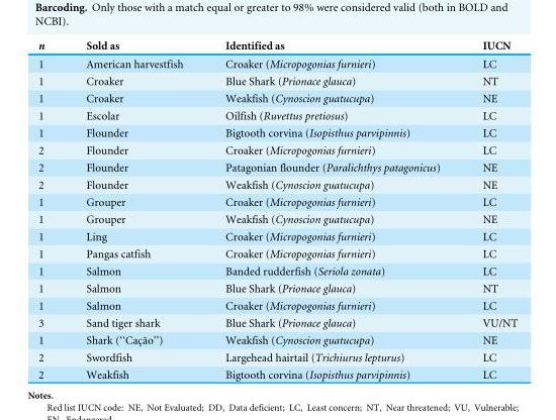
<table><thead><tr><td>n</td><td>Sold as</td><td>Identified as</td><td>IUCN</td></tr></thead><tbody><tr><td>1</td><td>American harvestfish</td><td>Croaker (Micropogonias furnieri)</td><td>LC</td></tr><tr><td>1</td><td>Croaker</td><td>Blue Shark (Prionace glauca)</td><td>NT</td></tr><tr><td>1</td><td>Croaker</td><td>Weakfish (Cynoscion guatucupa)</td><td>NE</td></tr><tr><td>1</td><td>Escolar</td><td>Oilfish (Ruvettus pretiosus)</td><td>LC</td></tr><tr><td>1</td><td>Flounder</td><td>Bigtooth corvina (Isopisthus parvipinnis)</td><td>LC</td></tr><tr><td>2</td><td>Flounder</td><td>Croaker (Micropogonias furnieri)</td><td>LC</td></tr><tr><td>2</td><td>Flounder</td><td>Patagonian flounder (Paralichthys patagonicus)</td><td>NE</td></tr><tr><td>2</td><td>Flounder</td><td>Weakfish (Cynoscion guatucupa)</td><td>NE</td></tr><tr><td>1</td><td>Grouper</td><td>Croaker (Micropogonias furnieri)</td><td>LC</td></tr><tr><td>1</td><td>Grouper</td><td>Weakfish (Cynoscion guatucupa)</td><td>NE</td></tr><tr><td>1</td><td>Ling</td><td>Croaker (Micropogonias furnieri)</td><td>LC</td></tr><tr><td>1</td><td>Pangas catfish</td><td>Croaker (Micropogonias furnieri)</td><td>LC</td></tr><tr><td>1</td><td>Salmon</td><td>Banded rudderfish (Seriola zonata)</td><td>LC</td></tr><tr><td>1</td><td>Salmon</td><td>Blue Shark (Prionace glauca)</td><td>NT</td></tr><tr><td>1</td><td>Salmon</td><td>Croaker (Micropogonias furnieri)</td><td>LC</td></tr><tr><td>3</td><td>Sand tiger shark</td><td>Blue Shark (Prionace glauca)</td><td>VU/NT</td></tr><tr><td>1</td><td>Shark (‘‘Ca¸cão’’)</td><td>Weakfish (Cynoscion guatucupa)</td><td>NE</td></tr><tr><td>2</td><td>Swordfish</td><td>Largehead hairtail (Trichiurus lepturus)</td><td>LC</td></tr><tr><td>2</td><td>Weakfish</td><td>Bigtooth corvina (Isopisthus parvipinnis)</td><td>LC</td></tr></tbody></table>